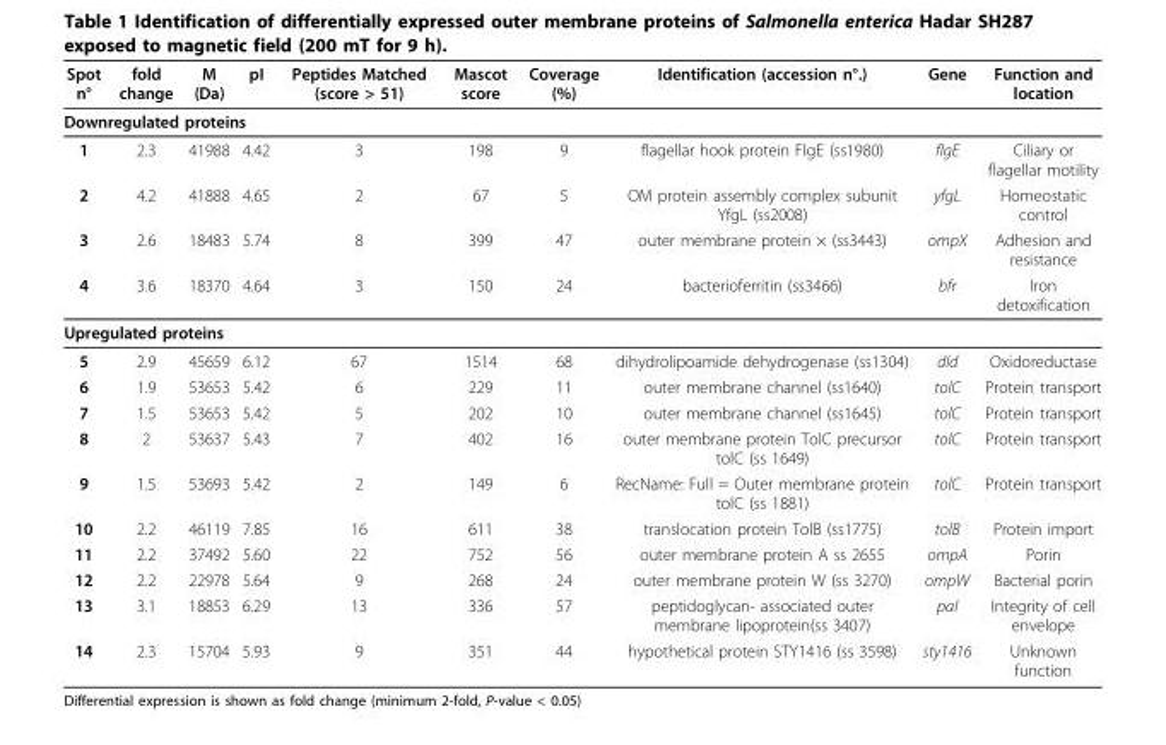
<table><thead><tr><td>Spot n°</td><td>fold change</td><td>M (Da)</td><td>pI</td><td>Peptides Matched (score &gt; 51)</td><td>Mascot score</td><td>Coverage (%)</td><td>Identification (accession n°.)</td><td>Gene</td><td>Function and location</td></tr></thead><tbody><tr><td colspan="10">Downregulated proteins</td></tr><tr><td>1</td><td>2.3</td><td>41988</td><td>4.42</td><td>3</td><td>198</td><td>9</td><td>flagellar hook protein FlgE (ss1980)</td><td>flgE</td><td>Ciliary or flagellar motility</td></tr><tr><td>2</td><td>4.2</td><td>41888</td><td>4.65</td><td>2</td><td>67</td><td>5</td><td>OM protein assembly complex subunit YfgL (ss2008)</td><td>yfgL</td><td>Homeostatic control</td></tr><tr><td>3</td><td>2.6</td><td>18483</td><td>5.74</td><td>8</td><td>399</td><td>47</td><td>outer membrane protein × (ss3443)</td><td>ompX</td><td>Adhesion and resistance</td></tr><tr><td>4</td><td>3.6</td><td>18370</td><td>4.64</td><td>3</td><td>150</td><td>24</td><td>bacterioferritin (ss3466)</td><td>bfr</td><td>Iron detoxification</td></tr><tr><td colspan="10">Upregulated proteins</td></tr><tr><td>5</td><td>2.9</td><td>45659</td><td>6.12</td><td>67</td><td>1514</td><td>68</td><td>dihydrolipoamide dehydrogenase (ss1304)</td><td>dld</td><td>Oxidoreductase</td></tr><tr><td>6</td><td>1.9</td><td>53653</td><td>5.42</td><td>6</td><td>229</td><td>11</td><td>outer membrane channel (ss1640)</td><td>tolC</td><td>Protein transport</td></tr><tr><td>7</td><td>1.5</td><td>53653</td><td>5.42</td><td>5</td><td>202</td><td>10</td><td>outer membrane channel (ss1645)</td><td>tolC</td><td>Protein transport</td></tr><tr><td>8</td><td>2</td><td>53637</td><td>5.43</td><td>7</td><td>402</td><td>16</td><td>outer membrane protein TolC precursor tolC (ss 1649)</td><td>tolC</td><td>Protein transport</td></tr><tr><td>9</td><td>1.5</td><td>53693</td><td>5.42</td><td>2</td><td>149</td><td>6</td><td>RecName: Full = Outer membrane protein tolC (ss 1881)</td><td>tolC</td><td>Protein transport</td></tr><tr><td>10</td><td>2.2</td><td>46119</td><td>7.85</td><td>16</td><td>611</td><td>38</td><td>translocation protein TolB (ss1775)</td><td>tolB</td><td>Protein import</td></tr><tr><td>11</td><td>2.2</td><td>37492</td><td>5.60</td><td>22</td><td>752</td><td>56</td><td>outer membrane protein A ss 2655</td><td>ompA</td><td>Porin</td></tr><tr><td>12</td><td>2.2</td><td>22978</td><td>5.64</td><td>9</td><td>268</td><td>24</td><td>outer membrane protein W (ss 3270)</td><td>ompW</td><td>Bacterial porin</td></tr><tr><td>13</td><td>3.1</td><td>18853</td><td>6.29</td><td>13</td><td>336</td><td>57</td><td>peptidoglycan- associated outer membrane lipoprotein(ss 3407)</td><td>pal</td><td>Integrity of cell envelope</td></tr><tr><td>14</td><td>2.3</td><td>15704</td><td>5.93</td><td>9</td><td>351</td><td>44</td><td>hypothetical protein STY1416 (ss 3598)</td><td>sty1416</td><td>Unknown function</td></tr></tbody></table>